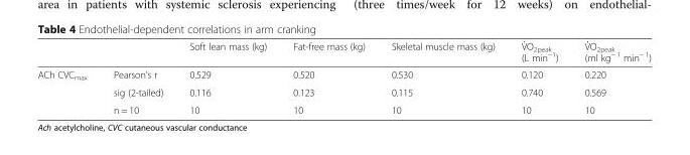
<table><thead><tr><td></td><td></td><td>Soft lean mass (kg)</td><td>Fat-free mass (kg)</td><td>Skeletal muscle mass (kg)</td><td>V̇O<sub>2peak</sub> (L min<sup>−1</sup>)</td><td>V̇O<sub>2peak</sub> (ml kg<sup>− 1</sup> min<sup>− 1</sup>)</td></tr></thead><tbody><tr><td rowspan="3">ACh CVC<sub>max</sub></td><td>Pearson’s r</td><td>0.529</td><td>0.520</td><td>0.530</td><td>0.120</td><td>0.220</td></tr><tr><td>sig (2-tailed)</td><td>0.116</td><td>0.123</td><td>0.115</td><td>0.740</td><td>0.569</td></tr><tr><td>n = 10</td><td>10</td><td>10</td><td>10</td><td>10</td><td>10</td></tr></tbody></table>